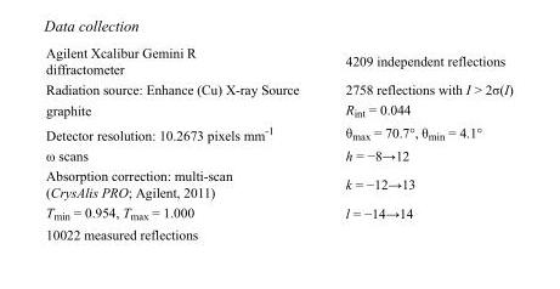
<table><tbody><tr><td>Agilent Xcalibur Gemini R diffractometer</td><td>4209 independent reflections</td></tr><tr><td>Radiation source: Enhance (Cu) X-ray Source</td><td>2758 reflections with I &gt; 2σ(I)</td></tr><tr><td>graphite</td><td>R<sub>int</sub> = 0.044</td></tr><tr><td>Detector resolution: 10.2673 pixels mm<sup>-1</sup></td><td>θ<sub>max</sub> = 70.7°, θ<sub>min</sub> = 4.1°</td></tr><tr><td>ω scans</td><td>h = −8→12</td></tr><tr><td>Absorption correction: multi-scan (CrysAlis PRO; Agilent, 2011)</td><td>k = −12→13</td></tr><tr><td>T<sub>min</sub> = 0.954, T<sub>max</sub> = 1.000</td><td>l = −14→14</td></tr><tr><td>10022 measured reflections</td><td></td></tr></tbody></table>